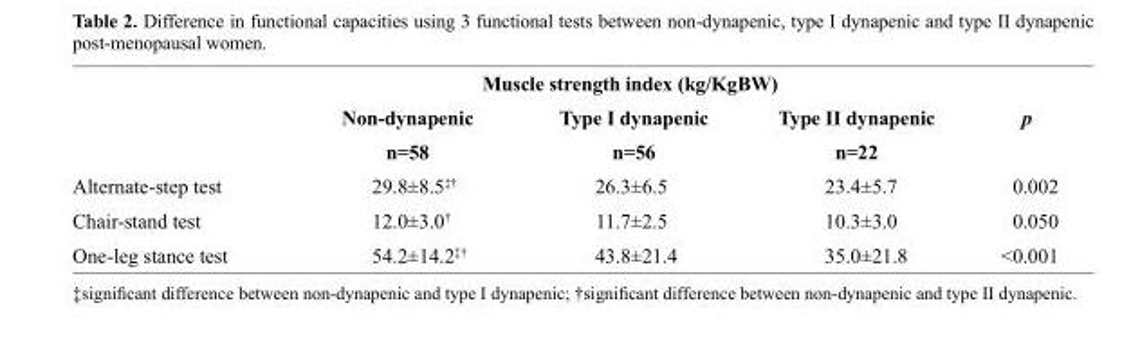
<table><thead><tr><td rowspan="2"></td><td colspan="3">Muscle strength index (kg/KgBW)</td><td rowspan="2">p</td></tr><tr><td>Non-dynapenic</td><td>Type I dynapenic</td><td>Type II dynapenic</td></tr></thead><tbody><tr><td></td><td>n=58</td><td>n=56</td><td>n=22</td><td></td></tr><tr><td>Alternate-step test</td><td>29.8±8.5‡†</td><td>26.3±6.5</td><td>23.4±5.7</td><td>0.002</td></tr><tr><td>Chair-stand test</td><td>12.0±3.0†</td><td>11.7±2.5</td><td>10.3±3.0</td><td>0.050</td></tr><tr><td>One-leg stance test</td><td>54.2±14.2‡†</td><td>43.8±21.4</td><td>35.0±21.8</td><td>&lt;0.001</td></tr></tbody></table>